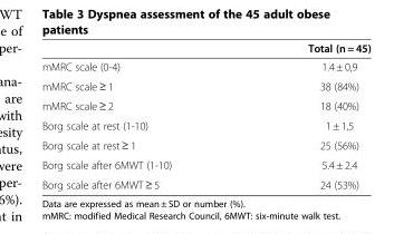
<table><thead><tr><td></td><td>Total (n = 45)</td></tr></thead><tbody><tr><td>mMRC scale (0-4)</td><td>1.4 ± 0,9</td></tr><tr><td>mMRC scale ≥ 1</td><td>38 (84%)</td></tr><tr><td>mMRC scale ≥ 2</td><td>18 (40%)</td></tr><tr><td>Borg scale at rest (1-10)</td><td>1 ± 1,5</td></tr><tr><td>Borg scale at rest ≥ 1</td><td>25 (56%)</td></tr><tr><td>Borg scale after 6MWT (1-10)</td><td>5.4 ± 2.4</td></tr><tr><td>Borg scale after 6MWT ≥ 5</td><td>24 (53%)</td></tr></tbody></table>